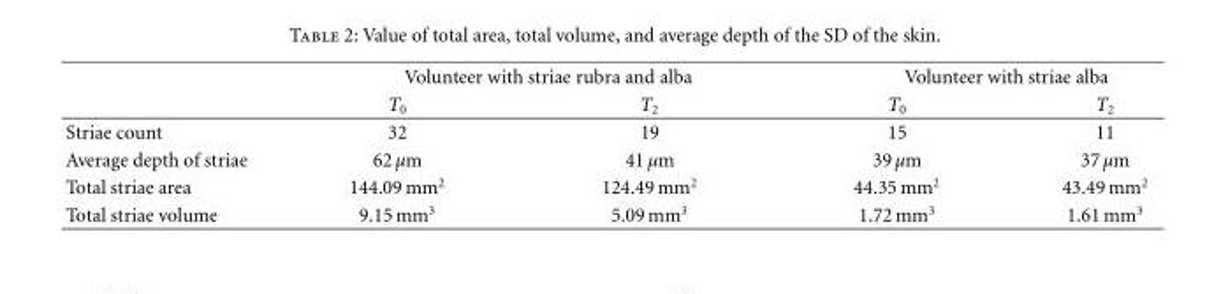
<table><thead><tr><td rowspan="2"></td><td colspan="2">Volunteer with striae rubra and alba</td><td colspan="2">Volunteer with striae alba</td></tr><tr><td>T<sub>0</sub></td><td>T<sub>2</sub></td><td>T<sub>0</sub></td><td>T<sub>2</sub></td></tr></thead><tbody><tr><td>Striae count</td><td>32</td><td>19</td><td>15</td><td>11</td></tr><tr><td>Average depth of striae</td><td>62 µm</td><td>41 µm</td><td>39 µm</td><td>37 µm</td></tr><tr><td>Total striae area</td><td>144.09 mm<sup>2</sup></td><td>124.49 mm<sup>2</sup></td><td>44.35 mm<sup>2</sup></td><td>43.49 mm<sup>2</sup></td></tr><tr><td>Total striae volume</td><td>9.15 mm<sup>3</sup></td><td>5.09 mm<sup>3</sup></td><td>1.72 mm<sup>3</sup></td><td>1.61 mm<sup>3</sup></td></tr></tbody></table>